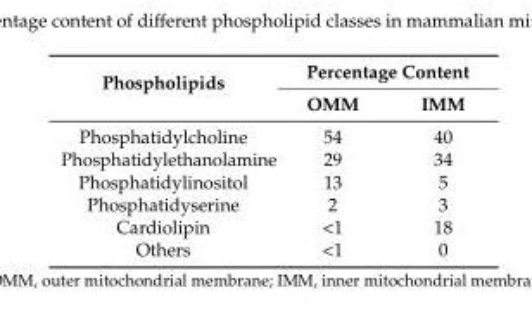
<table><thead><tr><td rowspan="2">Phospholipids</td><td colspan="2">Percentage Content</td></tr><tr><td>OMM</td><td>IMM</td></tr></thead><tbody><tr><td>Phosphatidylcholine</td><td>54</td><td>40</td></tr><tr><td>Phosphatidylethanolamine</td><td>29</td><td>34</td></tr><tr><td>Phosphatidylinositol</td><td>13</td><td>5</td></tr><tr><td>Phosphatidyserine</td><td>2</td><td>3</td></tr><tr><td>Cardiolipin</td><td>&lt;1</td><td>18</td></tr><tr><td>Others</td><td>&lt;1</td><td>0</td></tr></tbody></table>